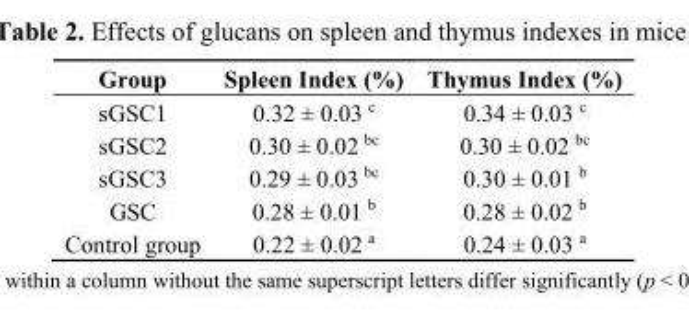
<table><thead><tr><td>Group</td><td>Spleen Index (%)</td><td>Thymus Index (%)</td></tr></thead><tbody><tr><td>sGSC1</td><td>0.32 ± 0.03 <sup>c</sup></td><td>0.34 ± 0.03 <sup>c</sup></td></tr><tr><td>sGSC2</td><td>0.30 ± 0.02 <sup>bc</sup></td><td>0.30 ± 0.02 <sup>bc</sup></td></tr><tr><td>sGSC3</td><td>0.29 ± 0.03 <sup>bc</sup></td><td>0.30 ± 0.01 <sup>b</sup></td></tr><tr><td>GSC</td><td>0.28 ± 0.01 <sup>b</sup></td><td>0.28 ± 0.02 <sup>b</sup></td></tr><tr><td>Control group</td><td>0.22 ± 0.02 <sup>a</sup></td><td>0.24 ± 0.03 <sup>a</sup></td></tr></tbody></table>